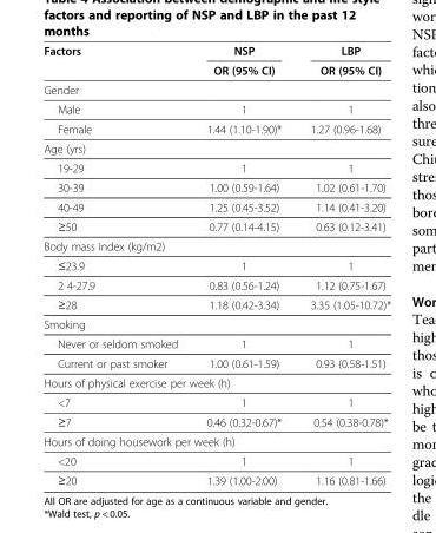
<table><thead><tr><td rowspan="2">Factors</td><td rowspan="2">NSP OR (95% CI)</td><td rowspan="2">LBP OR (95% CI)</td></tr><tr></tr></thead><tbody><tr><td colspan="3">Gender</td></tr><tr><td>Male</td><td>1</td><td>1</td></tr><tr><td>Female</td><td>1.44 (1.10-1.90)*</td><td>1.27 (0.96-1.68)</td></tr><tr><td colspan="3">Age (yrs)</td></tr><tr><td>19-29</td><td>1</td><td>1</td></tr><tr><td>30-39</td><td>1.00 (0.59-1.64)</td><td>1.02 (0.61-1.70)</td></tr><tr><td>40-49</td><td>1.25 (0.45-3.52)</td><td>1.14 (0.41-3.20)</td></tr><tr><td>≥50</td><td>0.77 (0.14-4.15)</td><td>0.63 (0.12-3.41)</td></tr><tr><td colspan="3">Body mass index (kg/m2)</td></tr><tr><td>≤23.9</td><td>1</td><td>1</td></tr><tr><td>2 4-27.9</td><td>0.83 (0.56-1.24)</td><td>1.12 (0.75-1.67)</td></tr><tr><td>≥28</td><td>1.18 (0.42-3.34)</td><td>3.35 (1.05-10.72)*</td></tr><tr><td colspan="3">Smoking</td></tr><tr><td>Never or seldom smoked</td><td>1</td><td>1</td></tr><tr><td>Current or past smoker</td><td>1.00 (0.61-1.59)</td><td>0.93 (0.58-1.51)</td></tr><tr><td colspan="3">Hours of physical exercise per week (h)</td></tr><tr><td>&lt;7</td><td>1</td><td>1</td></tr><tr><td>≥7</td><td>0.46 (0.32-0.67)*</td><td>0.54 (0.38-0.78)*</td></tr><tr><td colspan="3">Hours of doing housework per week (h)</td></tr><tr><td>&lt;20</td><td>1</td><td>1</td></tr><tr><td>≥20</td><td>1.39 (1.00-2.00)</td><td>1.16 (0.81-1.66)</td></tr></tbody></table>